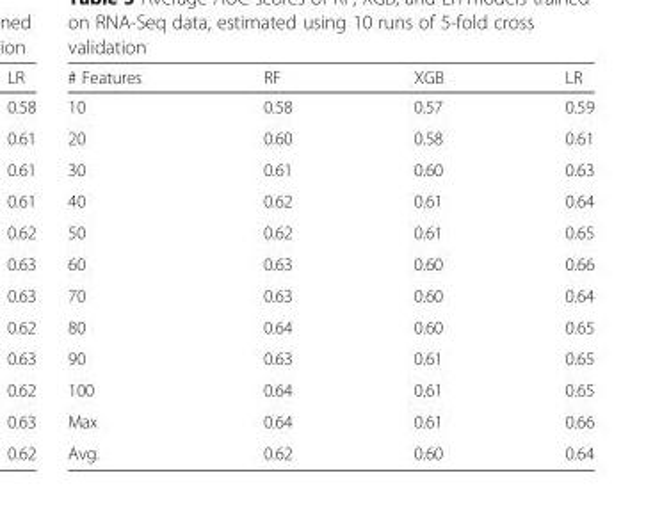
<table><thead><tr><td># Features</td><td>RF</td><td>XGB</td><td>LR</td></tr></thead><tbody><tr><td>10</td><td>0.58</td><td>0.57</td><td>0.59</td></tr><tr><td>20</td><td>0.60</td><td>0.58</td><td>0.61</td></tr><tr><td>30</td><td>0.61</td><td>0.60</td><td>0.63</td></tr><tr><td>40</td><td>0.62</td><td>0.61</td><td>0.64</td></tr><tr><td>50</td><td>0.62</td><td>0.61</td><td>0.65</td></tr><tr><td>60</td><td>0.63</td><td>0.60</td><td>0.66</td></tr><tr><td>70</td><td>0.63</td><td>0.60</td><td>0.64</td></tr><tr><td>80</td><td>0.64</td><td>0.60</td><td>0.65</td></tr><tr><td>90</td><td>0.63</td><td>0.61</td><td>0.65</td></tr><tr><td>100</td><td>0.64</td><td>0.61</td><td>0.65</td></tr><tr><td>Max</td><td>0.64</td><td>0.61</td><td>0.66</td></tr><tr><td>Avg.</td><td>0.62</td><td>0.60</td><td>0.64</td></tr></tbody></table>